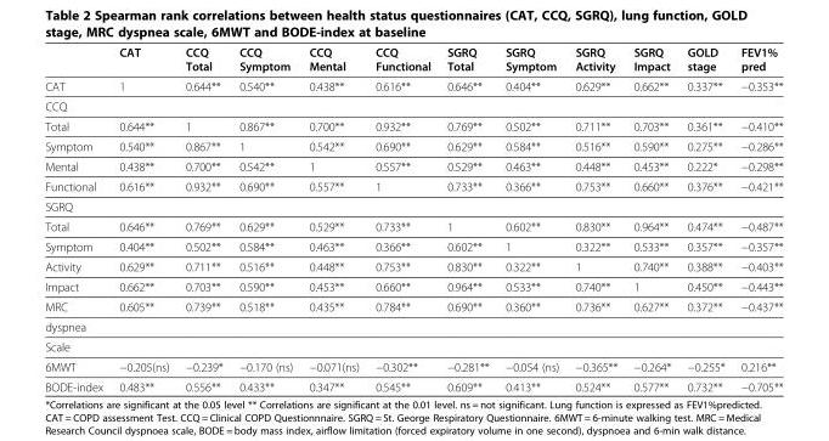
<table><thead><tr><td></td><td>CAT</td><td>CCQ Total</td><td>CCQ Symptom</td><td>CCQ Mental</td><td>CCQ Functional</td><td>SGRQ Total</td><td>SGRQ Symptom</td><td>SGRQ Activity</td><td>SGRQ Impact</td><td>GOLD stage</td><td>FEV1% pred</td></tr></thead><tbody><tr><td>CAT</td><td>1</td><td>0.644**</td><td>0.540**</td><td>0.438**</td><td>0.616**</td><td>0.646**</td><td>0.404**</td><td>0.629**</td><td>0.662**</td><td>0.337**</td><td>−0.353**</td></tr><tr><td colspan="12">CCQ</td></tr><tr><td>Total</td><td>0.644**</td><td>1</td><td>0.867**</td><td>0.700**</td><td>0.932**</td><td>0.769**</td><td>0.502**</td><td>0.711**</td><td>0.703**</td><td>0.361**</td><td>−0.410**</td></tr><tr><td>Symptom</td><td>0.540**</td><td>0.867**</td><td>1</td><td>0.542**</td><td>0.690**</td><td>0.629**</td><td>0.584**</td><td>0.516**</td><td>0.590**</td><td>0.275**</td><td>−0.286**</td></tr><tr><td>Mental</td><td>0.438**</td><td>0.700**</td><td>0.542**</td><td>1</td><td>0.557**</td><td>0.529**</td><td>0.463**</td><td>0.448**</td><td>0.453**</td><td>0.222*</td><td>−0.298**</td></tr><tr><td>Functional</td><td>0.616**</td><td>0.932**</td><td>0.690**</td><td>0.557**</td><td>1</td><td>0.733**</td><td>0.366**</td><td>0.753**</td><td>0.660**</td><td>0.376**</td><td>−0.421**</td></tr><tr><td colspan="12">SGRQ</td></tr><tr><td>Total</td><td>0.646**</td><td>0.769**</td><td>0.629**</td><td>0.529**</td><td>0.733**</td><td>1</td><td>0.602**</td><td>0.830**</td><td>0.964**</td><td>0.474**</td><td>−0.487**</td></tr><tr><td>Symptom</td><td>0.404**</td><td>0.502**</td><td>0.584**</td><td>0.463**</td><td>0.366**</td><td>0.602**</td><td>1</td><td>0.322**</td><td>0.533**</td><td>0.357**</td><td>−0.357**</td></tr><tr><td>Activity</td><td>0.629**</td><td>0.711**</td><td>0.516**</td><td>0.448**</td><td>0.753**</td><td>0.830**</td><td>0.322**</td><td>1</td><td>0.740**</td><td>0.388**</td><td>−0.403**</td></tr><tr><td>Impact</td><td>0.662**</td><td>0.703**</td><td>0.590**</td><td>0.453**</td><td>0.660**</td><td>0.964**</td><td>0.533**</td><td>0.740**</td><td>1</td><td>0.450**</td><td>−0.443**</td></tr><tr><td>MRC</td><td>0.605**</td><td>0.739**</td><td>0.518**</td><td>0.435**</td><td>0.784**</td><td>0.690**</td><td>0.360**</td><td>0.736**</td><td>0.627**</td><td>0.372**</td><td>−0.437**</td></tr><tr><td colspan="12">dyspnea</td></tr><tr><td colspan="12">Scale</td></tr><tr><td>6MWT</td><td>−0.205(ns)</td><td>−0.239*</td><td>−0.170 (ns)</td><td>−0.071(ns)</td><td>−0.302**</td><td>−0.281**</td><td>−0.054 (ns)</td><td>−0.365**</td><td>−0.264*</td><td>−0.255*</td><td>0.216**</td></tr><tr><td>BODE-index</td><td>0.483**</td><td>0.556**</td><td>0.433**</td><td>0.347**</td><td>0.545**</td><td>0.609**</td><td>0.413**</td><td>0.524**</td><td>0.577**</td><td>0.732**</td><td>−0.705**</td></tr></tbody></table>